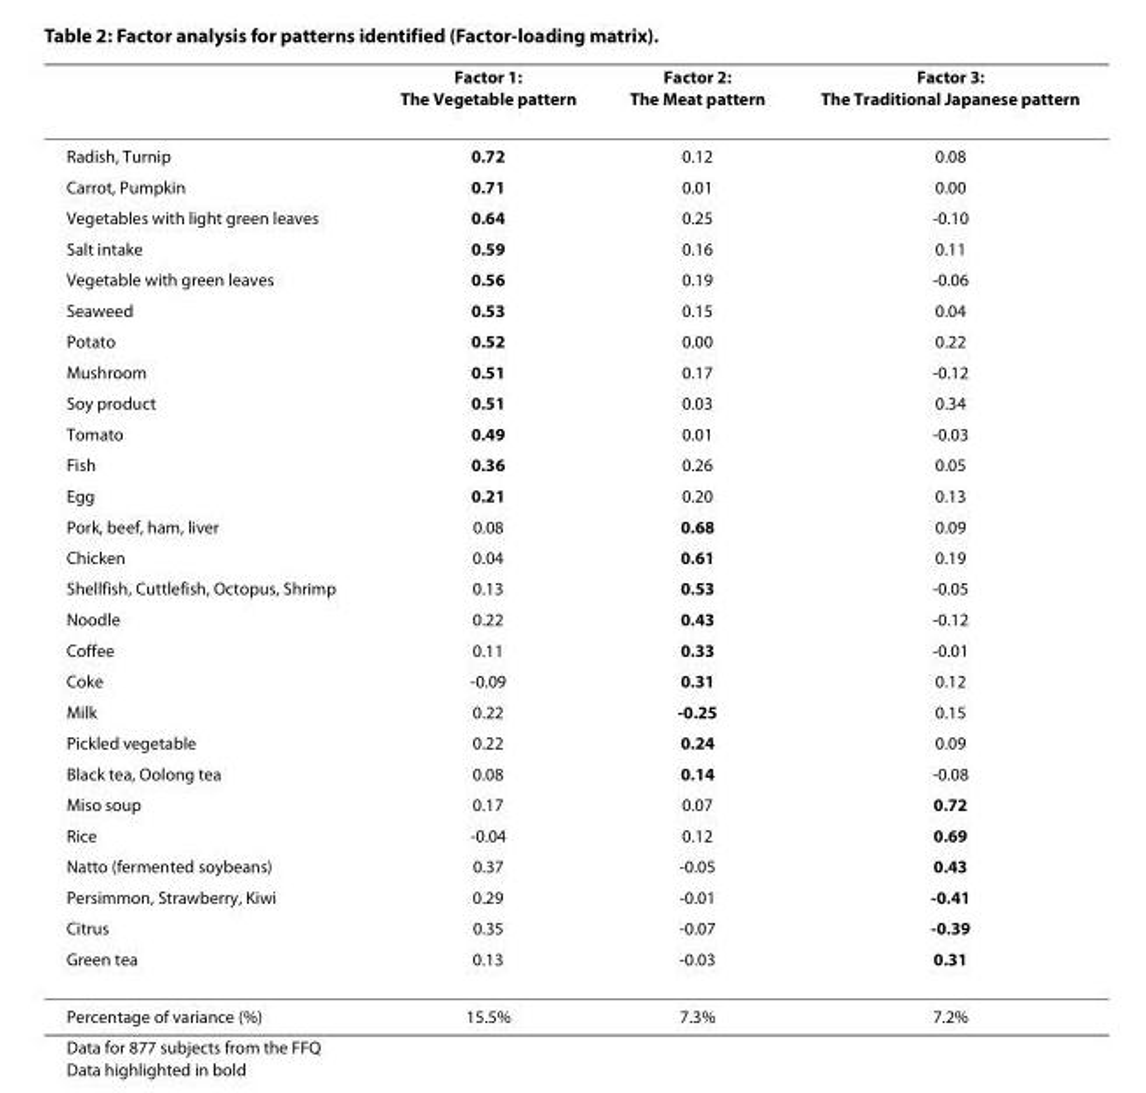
<table><thead><tr><td></td><td>Factor 1: The Vegetable pattern</td><td>Factor 2: The Meat pattern</td><td>Factor 3: The Traditional Japanese pattern</td></tr></thead><tbody><tr><td>Radish, Turnip</td><td>0.72</td><td>0.12</td><td>0.08</td></tr><tr><td>Carrot, Pumpkin</td><td>0.71</td><td>0.01</td><td>0.00</td></tr><tr><td>Vegetables with light green leaves</td><td>0.64</td><td>0.25</td><td>-0.10</td></tr><tr><td>Salt intake</td><td>0.59</td><td>0.16</td><td>0.11</td></tr><tr><td>Vegetable with green leaves</td><td>0.56</td><td>0.19</td><td>-0.06</td></tr><tr><td>Seaweed</td><td>0.53</td><td>0.15</td><td>0.04</td></tr><tr><td>Potato</td><td>0.52</td><td>0.00</td><td>0.22</td></tr><tr><td>Mushroom</td><td>0.51</td><td>0.17</td><td>-0.12</td></tr><tr><td>Soy product</td><td>0.51</td><td>0.03</td><td>0.34</td></tr><tr><td>Tomato</td><td>0.49</td><td>0.01</td><td>-0.03</td></tr><tr><td>Fish</td><td>0.36</td><td>0.26</td><td>0.05</td></tr><tr><td>Egg</td><td>0.21</td><td>0.20</td><td>0.13</td></tr><tr><td>Pork, beef, ham, liver</td><td>0.08</td><td>0.68</td><td>0.09</td></tr><tr><td>Chicken</td><td>0.04</td><td>0.61</td><td>0.19</td></tr><tr><td>Shellfish, Cuttlefish, Octopus, Shrimp</td><td>0.13</td><td>0.53</td><td>-0.05</td></tr><tr><td>Noodle</td><td>0.22</td><td>0.43</td><td>-0.12</td></tr><tr><td>Coffee</td><td>0.11</td><td>0.33</td><td>-0.01</td></tr><tr><td>Coke</td><td>-0.09</td><td>0.31</td><td>0.12</td></tr><tr><td>Milk</td><td>0.22</td><td>-0.25</td><td>0.15</td></tr><tr><td>Pickled vegetable</td><td>0.22</td><td>0.24</td><td>0.09</td></tr><tr><td>Black tea, Oolong tea</td><td>0.08</td><td>0.14</td><td>-0.08</td></tr><tr><td>Miso soup</td><td>0.17</td><td>0.07</td><td>0.72</td></tr><tr><td>Rice</td><td>-0.04</td><td>0.12</td><td>0.69</td></tr><tr><td>Natto (fermented soybeans)</td><td>0.37</td><td>-0.05</td><td>0.43</td></tr><tr><td>Persimmon, Strawberry, Kiwi</td><td>0.29</td><td>-0.01</td><td>-0.41</td></tr><tr><td>Citrus</td><td>0.35</td><td>-0.07</td><td>-0.39</td></tr><tr><td>Green tea</td><td>0.13</td><td>-0.03</td><td>0.31</td></tr><tr><td>Percentage of variance (%)</td><td>15.5%</td><td>7.3%</td><td>7.2%</td></tr></tbody></table>